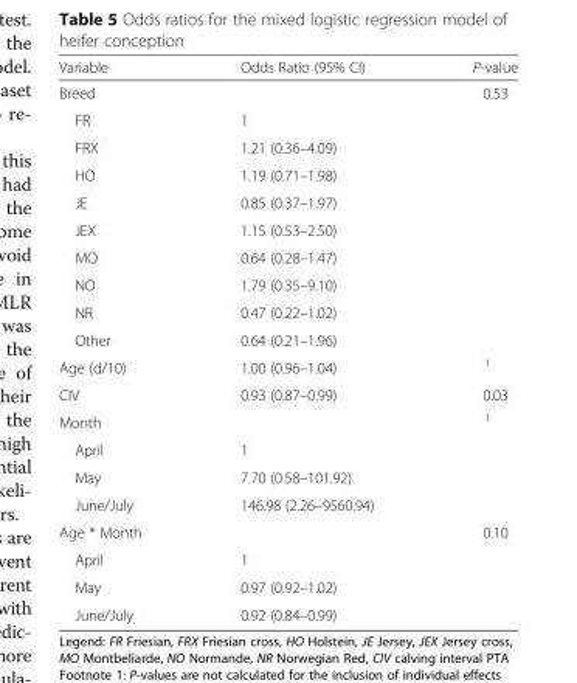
<table><thead><tr><td>Variable</td><td>Odds Ratio (95% CI)</td><td>P-value</td></tr></thead><tbody><tr><td>Breed</td><td></td><td>0.53</td></tr><tr><td>FR</td><td>1</td><td></td></tr><tr><td>FRX</td><td>1.21 (0.36–4.09)</td><td></td></tr><tr><td>HO</td><td>1.19 (0.71–1.98)</td><td></td></tr><tr><td>JE</td><td>0.85 (0.37–1.97)</td><td></td></tr><tr><td>JEX</td><td>1.15 (0.53–2.50)</td><td></td></tr><tr><td>MO</td><td>0.64 (0.28–1.47)</td><td></td></tr><tr><td>NO</td><td>1.79 (0.35–9.10)</td><td></td></tr><tr><td>NR</td><td>0.47 (0.22–1.02)</td><td></td></tr><tr><td>Other</td><td>0.64 (0.21–1.96)</td><td></td></tr><tr><td>Age (d/10)</td><td>1.00 (0.96–1.04)</td><td><sup>1</sup></td></tr><tr><td>CIV</td><td>0.93 (0.87–0.99)</td><td>0.03</td></tr><tr><td>Month</td><td></td><td><sup>1</sup></td></tr><tr><td>April</td><td>1</td><td></td></tr><tr><td>May</td><td>7.70 (0.58–101.92)</td><td></td></tr><tr><td>June/July</td><td>146.98 (2.26–9560.94)</td><td></td></tr><tr><td>Age * Month</td><td></td><td>0.10</td></tr><tr><td>April</td><td>1</td><td></td></tr><tr><td>May</td><td>0.97 (0.92–1.02)</td><td></td></tr><tr><td>June/July</td><td>0.92 (0.84–0.99)</td><td></td></tr></tbody></table>